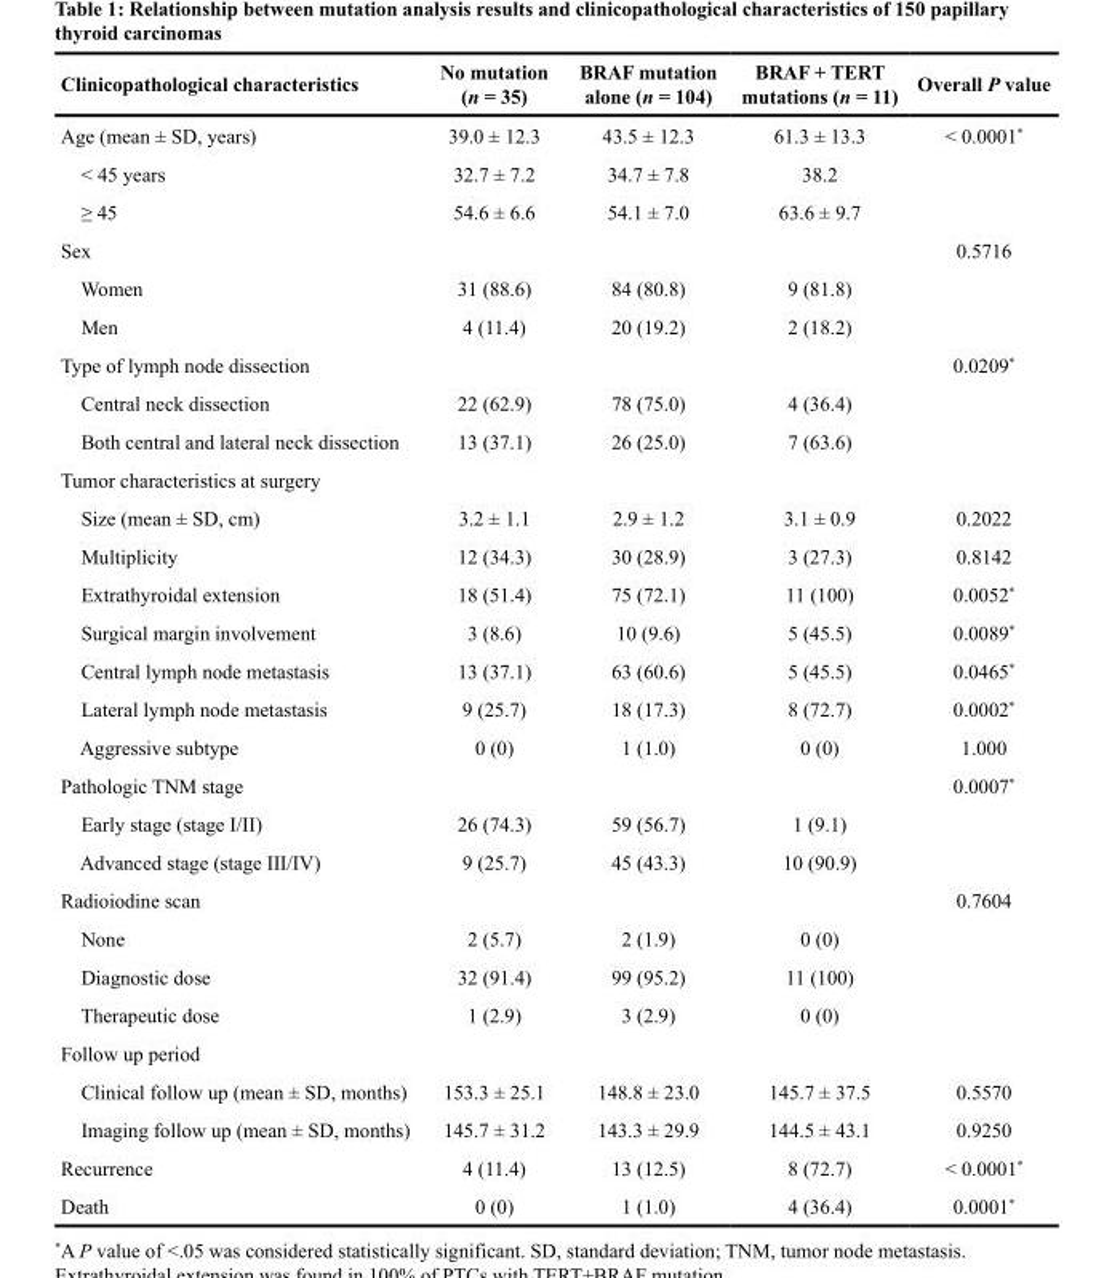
<table><thead><tr><td>Clinicopathological characteristics</td><td>No mutation (n = 35)</td><td>BRAF mutation alone (n = 104)</td><td>BRAF + TERT mutations (n = 11)</td><td>Overall P value</td></tr></thead><tbody><tr><td>Age (mean ± SD, years)</td><td>39.0 ± 12.3</td><td>43.5 ± 12.3</td><td>61.3 ± 13.3</td><td>&lt; 0.0001*</td></tr><tr><td>&lt; 45 years</td><td>32.7 ± 7.2</td><td>34.7 ± 7.8</td><td>38.2</td><td></td></tr><tr><td>≥ 45</td><td>54.6 ± 6.6</td><td>54.1 ± 7.0</td><td>63.6 ± 9.7</td><td></td></tr><tr><td>Sex</td><td></td><td></td><td></td><td>0.5716</td></tr><tr><td>Women</td><td>31 (88.6)</td><td>84 (80.8)</td><td>9 (81.8)</td><td></td></tr><tr><td>Men</td><td>4 (11.4)</td><td>20 (19.2)</td><td>2 (18.2)</td><td></td></tr><tr><td>Type of lymph node dissection</td><td></td><td></td><td></td><td>0.0209*</td></tr><tr><td>Central neck dissection</td><td>22 (62.9)</td><td>78 (75.0)</td><td>4 (36.4)</td><td></td></tr><tr><td>Both central and lateral neck dissection</td><td>13 (37.1)</td><td>26 (25.0)</td><td>7 (63.6)</td><td></td></tr><tr><td colspan="5">Tumor characteristics at surgery</td></tr><tr><td>Size (mean ± SD, cm)</td><td>3.2 ± 1.1</td><td>2.9 ± 1.2</td><td>3.1 ± 0.9</td><td>0.2022</td></tr><tr><td>Multiplicity</td><td>12 (34.3)</td><td>30 (28.9)</td><td>3 (27.3)</td><td>0.8142</td></tr><tr><td>Extrathyroidal extension</td><td>18 (51.4)</td><td>75 (72.1)</td><td>11 (100)</td><td>0.0052*</td></tr><tr><td>Surgical margin involvement</td><td>3 (8.6)</td><td>10 (9.6)</td><td>5 (45.5)</td><td>0.0089*</td></tr><tr><td>Central lymph node metastasis</td><td>13 (37.1)</td><td>63 (60.6)</td><td>5 (45.5)</td><td>0.0465*</td></tr><tr><td>Lateral lymph node metastasis</td><td>9 (25.7)</td><td>18 (17.3)</td><td>8 (72.7)</td><td>0.0002*</td></tr><tr><td>Aggressive subtype</td><td>0 (0)</td><td>1 (1.0)</td><td>0 (0)</td><td>1.000</td></tr><tr><td>Pathologic TNM stage</td><td></td><td></td><td></td><td>0.0007*</td></tr><tr><td>Early stage (stage I/II)</td><td>26 (74.3)</td><td>59 (56.7)</td><td>1 (9.1)</td><td></td></tr><tr><td>Advanced stage (stage III/IV)</td><td>9 (25.7)</td><td>45 (43.3)</td><td>10 (90.9)</td><td></td></tr><tr><td>Radioiodine scan</td><td></td><td></td><td></td><td>0.7604</td></tr><tr><td>None</td><td>2 (5.7)</td><td>2 (1.9)</td><td>0 (0)</td><td></td></tr><tr><td>Diagnostic dose</td><td>32 (91.4)</td><td>99 (95.2)</td><td>11 (100)</td><td></td></tr><tr><td>Therapeutic dose</td><td>1 (2.9)</td><td>3 (2.9)</td><td>0 (0)</td><td></td></tr><tr><td colspan="5">Follow up period</td></tr><tr><td>Clinical follow up (mean ± SD, months)</td><td>153.3 ± 25.1</td><td>148.8 ± 23.0</td><td>145.7 ± 37.5</td><td>0.5570</td></tr><tr><td>Imaging follow up (mean ± SD, months)</td><td>145.7 ± 31.2</td><td>143.3 ± 29.9</td><td>144.5 ± 43.1</td><td>0.9250</td></tr><tr><td>Recurrence</td><td>4 (11.4)</td><td>13 (12.5)</td><td>8 (72.7)</td><td>&lt; 0.0001*</td></tr><tr><td>Death</td><td>0 (0)</td><td>1 (1.0)</td><td>4 (36.4)</td><td>0.0001*</td></tr></tbody></table>